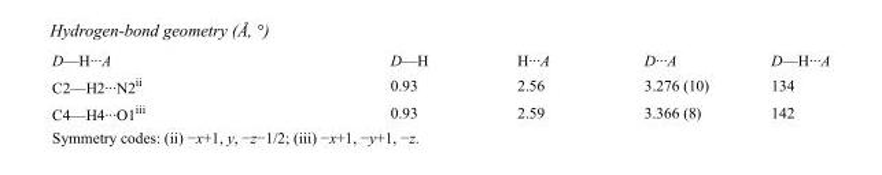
<table><tbody><tr><td>D—H···A</td><td>D—H</td><td>H···A</td><td>D···A</td><td>D—H···A</td></tr><tr><td>C2—H2···N2<sup>ii</sup></td><td>0.93</td><td>2.56</td><td>3.276 (10)</td><td>134</td></tr><tr><td>C4—H4···O1<sup>iii</sup></td><td>0.93</td><td>2.59</td><td>3.366 (8)</td><td>142</td></tr></tbody></table>